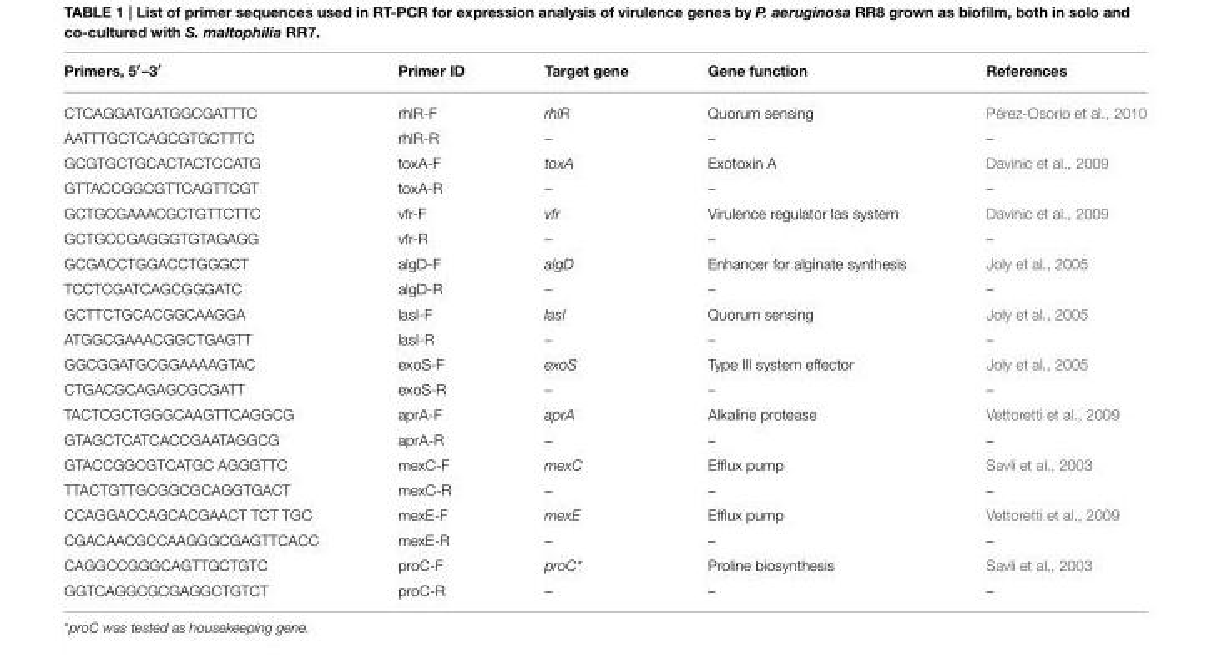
<table><thead><tr><td>Primers, 5′–3′</td><td>Primer ID</td><td>Target gene</td><td>Gene function</td><td>References</td></tr></thead><tbody><tr><td>CTCAGGATGATGGCGATTTC</td><td>rhlR-F</td><td>rhlR</td><td>Quorum sensing</td><td>Pérez-Osorio et al., 2010</td></tr><tr><td>AATTTGCTCAGCGTGCTTTC</td><td>rhlR-R</td><td>–</td><td>–</td><td>–</td></tr><tr><td>GCGTGCTGCACTACTCCATG</td><td>toxA-F</td><td>toxA</td><td>Exotoxin A</td><td>Davinic et al., 2009</td></tr><tr><td>GTTACCGGCGTTCAGTTCGT</td><td>toxA-R</td><td>–</td><td>–</td><td>–</td></tr><tr><td>GCTGCGAAACGCTGTTCTTC</td><td>vfr-F</td><td>vfr</td><td>Virulence regulator las system</td><td>Davinic et al., 2009</td></tr><tr><td>GCTGCCGAGGGTGTAGAGG</td><td>vfr-R</td><td>–</td><td>–</td><td>–</td></tr><tr><td>GCGACCTGGACCTGGGCT</td><td>algD-F</td><td>algD</td><td>Enhancer for alginate synthesis</td><td>Joly et al., 2005</td></tr><tr><td>TCCTCGATCAGCGGGATC</td><td>algD-R</td><td>–</td><td>–</td><td>–</td></tr><tr><td>GCTTCTGCACGGCAAGGA</td><td>lasI-F</td><td>lasI</td><td>Quorum sensing</td><td>Joly et al., 2005</td></tr><tr><td>ATGGCGAAACGGCTGAGTT</td><td>lasI-R</td><td>–</td><td>–</td><td>–</td></tr><tr><td>GGCGGATGCGGAAAAGTAC</td><td>exoS-F</td><td>exoS</td><td>Type III system effector</td><td>Joly et al., 2005</td></tr><tr><td>CTGACGCAGAGCGCGATT</td><td>exoS-R</td><td>–</td><td>–</td><td>–</td></tr><tr><td>TACTCGCTGGGCAAGTTCAGGCG</td><td>aprA-F</td><td>aprA</td><td>Alkaline protease</td><td>Vettoretti et al., 2009</td></tr><tr><td>GTAGCTCATCACCGAATAGGCG</td><td>aprA-R</td><td>–</td><td>–</td><td>–</td></tr><tr><td>GTACCGGCGTCATGC AGGGTTC</td><td>mexC-F</td><td>mexC</td><td>Efflux pump</td><td>Savli et al., 2003</td></tr><tr><td>TTACTGTTGCGGCGCAGGTGACT</td><td>mexC-R</td><td>–</td><td>–</td><td>–</td></tr><tr><td>CCAGGACCAGCACGAACT TCT TGC</td><td>mexE-F</td><td>mexE</td><td>Efflux pump</td><td>Vettoretti et al., 2009</td></tr><tr><td>CGACAACGCCAAGGGCGAGTTCACC</td><td>mexE-R</td><td>–</td><td>–</td><td>–</td></tr><tr><td>CAGGCCGGGCAGTTGCTGTC</td><td>proC-F</td><td>proC*</td><td>Proline biosynthesis</td><td>Savli et al., 2003</td></tr><tr><td>GGTCAGGCGCGAGGCTGTCT</td><td>proC-R</td><td>–</td><td>–</td><td>–</td></tr></tbody></table>